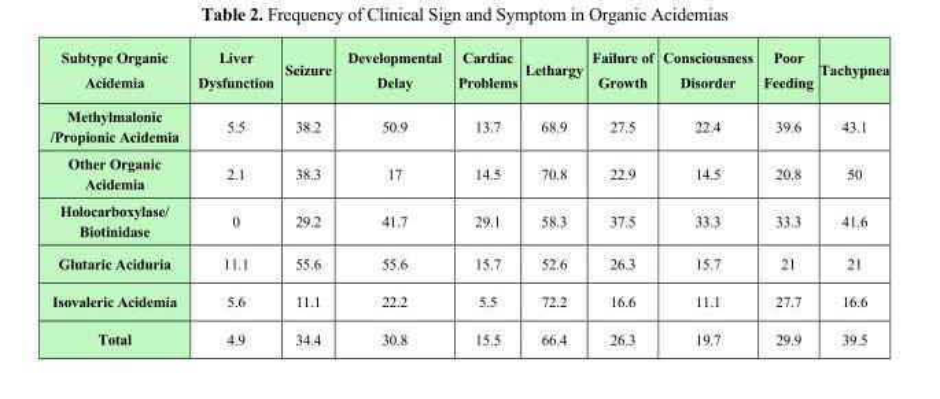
<table><thead><tr><td>Tachypnea</td><td>Poor Feeding</td><td>Consciousness Disorder</td><td>Failure of Growth</td><td>Lethargy</td><td>Cardiac Problems</td><td>Developmental Delay</td><td>Seizure</td><td>Liver Dysfunction</td><td>Subtype Organic Acidemia</td></tr></thead><tbody><tr><td>43.1</td><td>39.6</td><td>22.4</td><td>27.5</td><td>68.9</td><td>13.7</td><td>50.9</td><td>38.2</td><td>5.5</td><td>Methylmalonic /Propionic Acidemia</td></tr><tr><td>50</td><td>20.8</td><td>14.5</td><td>22.9</td><td>70.8</td><td>14.5</td><td>17</td><td>38.3</td><td>2.1</td><td>Other Organic Acidemia</td></tr><tr><td>41.6</td><td>33.3</td><td>33.3</td><td>37.5</td><td>58.3</td><td>29.1</td><td>41.7</td><td>29.2</td><td>0</td><td>Holocarboxylase/ Biotinidase</td></tr><tr><td>21</td><td>21</td><td>15.7</td><td>26.3</td><td>52.6</td><td>15.7</td><td>55.6</td><td>55.6</td><td>11.1</td><td>Glutaric Aciduria</td></tr><tr><td>16.6</td><td>27.7</td><td>11.1</td><td>16.6</td><td>72.2</td><td>5.5</td><td>22.2</td><td>11.1</td><td>5.6</td><td>Isovaleric Acidemia</td></tr><tr><td>39.5</td><td>29.9</td><td>19.7</td><td>26.3</td><td>66.4</td><td>15.5</td><td>30.8</td><td>34.4</td><td>4.9</td><td>Total</td></tr></tbody></table>